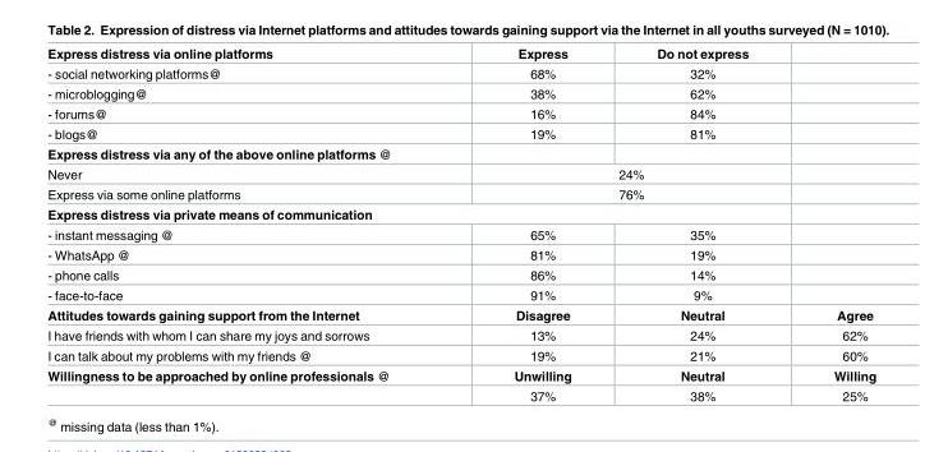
<table><thead><tr><td>Express distress via online platforms</td><td>Express</td><td>Do not express</td><td></td></tr></thead><tbody><tr><td>- social networking platforms@</td><td>68%</td><td>32%</td><td></td></tr><tr><td>- microblogging@</td><td>38%</td><td>62%</td><td></td></tr><tr><td>- forums@</td><td>16%</td><td>84%</td><td></td></tr><tr><td>- blogs@</td><td>19%</td><td>81%</td><td></td></tr><tr><td colspan="4">Express distress via any of the above online platforms @</td></tr><tr><td>Never</td><td colspan="2">24%</td><td></td></tr><tr><td>Express via some online platforms</td><td colspan="2">76%</td><td></td></tr><tr><td colspan="4">Express distress via private means of communication</td></tr><tr><td>- instant messaging @</td><td>65%</td><td>35%</td><td></td></tr><tr><td>- WhatsApp @</td><td>81%</td><td>19%</td><td></td></tr><tr><td>- phone calls</td><td>86%</td><td>14%</td><td></td></tr><tr><td>- face-to-face</td><td>91%</td><td>9%</td><td></td></tr><tr><td>Attitudes towards gaining support from the Internet</td><td>Disagree</td><td>Neutral</td><td>Agree</td></tr><tr><td>I have friends with whom I can share my joys and sorrows</td><td>13%</td><td>24%</td><td>62%</td></tr><tr><td>I can talk about my problems with my friends @</td><td>19%</td><td>21%</td><td>60%</td></tr><tr><td rowspan="2">Willingness to be approached by online professionals @</td><td>Unwilling</td><td>Neutral</td><td>Willing</td></tr><tr><td>37%</td><td>38%</td><td>25%</td></tr></tbody></table>